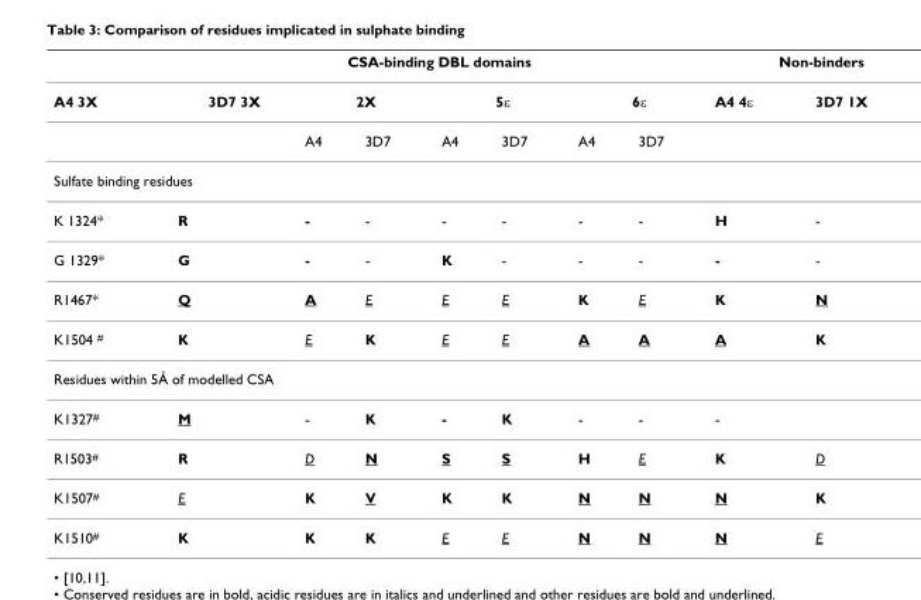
<table><thead><tr><td rowspan="3">A4 3X</td><td colspan="7">CSA-binding DBL domains</td><td colspan="2">Non-binders</td></tr><tr><td rowspan="2">3D7 3X</td><td colspan="2">2X</td><td colspan="2">5ε</td><td colspan="2">6ε</td><td rowspan="2">A4 4ε</td><td rowspan="2">3D7 1X</td></tr><tr><td>A4</td><td>3D7</td><td>A4</td><td>3D7</td><td>A4</td><td>3D7</td></tr></thead><tbody><tr><td colspan="10">Sulfate binding residues</td></tr><tr><td>K 1324*</td><td>R</td><td>-</td><td>-</td><td>-</td><td>-</td><td>-</td><td>-</td><td>H</td><td>-</td></tr><tr><td>G 1329*</td><td>G</td><td>-</td><td>-</td><td>K</td><td>-</td><td>-</td><td>-</td><td>-</td><td>-</td></tr><tr><td>R1467*</td><td>Q</td><td>A</td><td>E</td><td>E</td><td>E</td><td>K</td><td>E</td><td>K</td><td>N</td></tr><tr><td>K1504 <sup>#</sup></td><td>K</td><td>E</td><td>K</td><td>E</td><td>E</td><td>A</td><td>A</td><td>A</td><td>K</td></tr><tr><td colspan="10">Residues within 5Å of modelled CSA</td></tr><tr><td>K1327<sup>#</sup></td><td>M</td><td>-</td><td>K</td><td>-</td><td>K</td><td>-</td><td>-</td><td>-</td><td></td></tr><tr><td>R1503<sup>#</sup></td><td>R</td><td>D</td><td>N</td><td>S</td><td>S</td><td>H</td><td>E</td><td>K</td><td>D</td></tr><tr><td>K1507<sup>#</sup></td><td>E</td><td>K</td><td>V</td><td>K</td><td>K</td><td>N</td><td>N</td><td>N</td><td>K</td></tr><tr><td>K1510<sup>#</sup></td><td>K</td><td>K</td><td>K</td><td>E</td><td>E</td><td>N</td><td>N</td><td>N</td><td>E</td></tr></tbody></table>